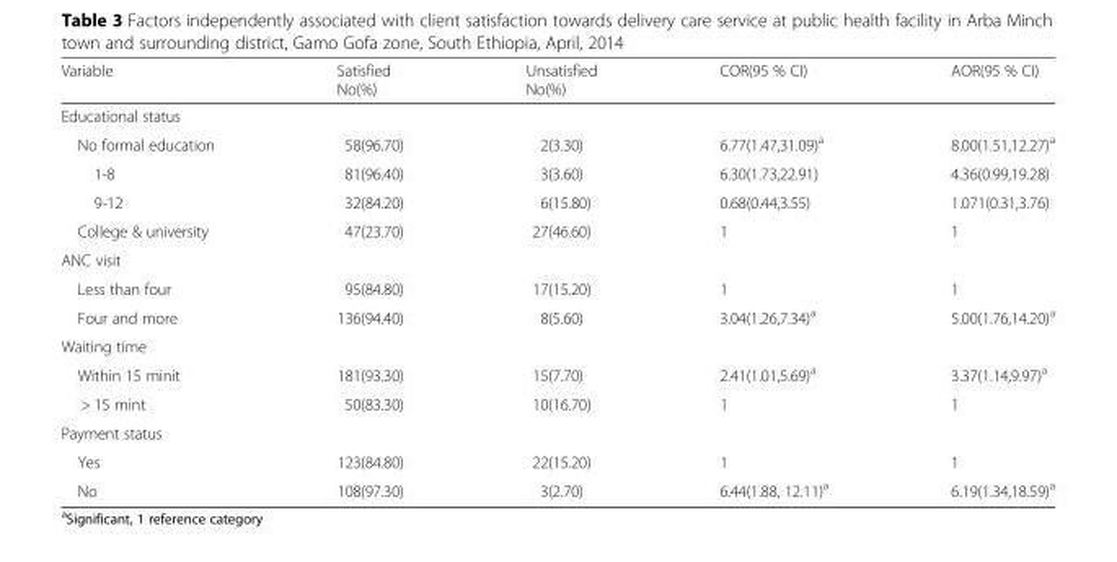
<table><thead><tr><td>Variable</td><td>Satisfied No(%)</td><td>Unsatisfied No(%)</td><td>COR(95 % CI)</td><td>AOR(95 % CI)</td></tr></thead><tbody><tr><td colspan="5">Educational status</td></tr><tr><td>No formal education</td><td>58(96.70)</td><td>2(3.30)</td><td>6.77(1.47,31.09)<sup>a</sup></td><td>8.00(1.51,12.27)<sup>a</sup></td></tr><tr><td>1-8</td><td>81(96.40)</td><td>3(3.60)</td><td>6.30(1.73,22.91)</td><td>4.36(0.99,19.28)</td></tr><tr><td>9-12</td><td>32(84.20)</td><td>6(15.80)</td><td>0.68(0.44,3.55)</td><td>1.071(0.31,3.76)</td></tr><tr><td>College &amp; university</td><td>47(23.70)</td><td>27(46.60)</td><td>1</td><td>1</td></tr><tr><td colspan="5">ANC visit</td></tr><tr><td>Less than four</td><td>95(84.80)</td><td>17(15.20)</td><td>1</td><td>1</td></tr><tr><td>Four and more</td><td>136(94.40)</td><td>8(5.60)</td><td>3.04(1.26,7.34)<sup>a</sup></td><td>5.00(1.76,14.20)<sup>a</sup></td></tr><tr><td colspan="5">Waiting time</td></tr><tr><td>Within 15 minit</td><td>181(93.30)</td><td>15(7.70)</td><td>2.41(1.01,5.69)<sup>a</sup></td><td>3.37(1.14,9.97)<sup>a</sup></td></tr><tr><td>&gt; 15 mint</td><td>50(83.30)</td><td>10(16.70)</td><td>1</td><td>1</td></tr><tr><td colspan="5">Payment status</td></tr><tr><td>Yes</td><td>123(84.80)</td><td>22(15.20)</td><td>1</td><td>1</td></tr><tr><td>No</td><td>108(97.30)</td><td>3(2.70)</td><td>6.44(1.88, 12.11)<sup>a</sup></td><td>6.19(1.34,18.59)<sup>a</sup></td></tr></tbody></table>